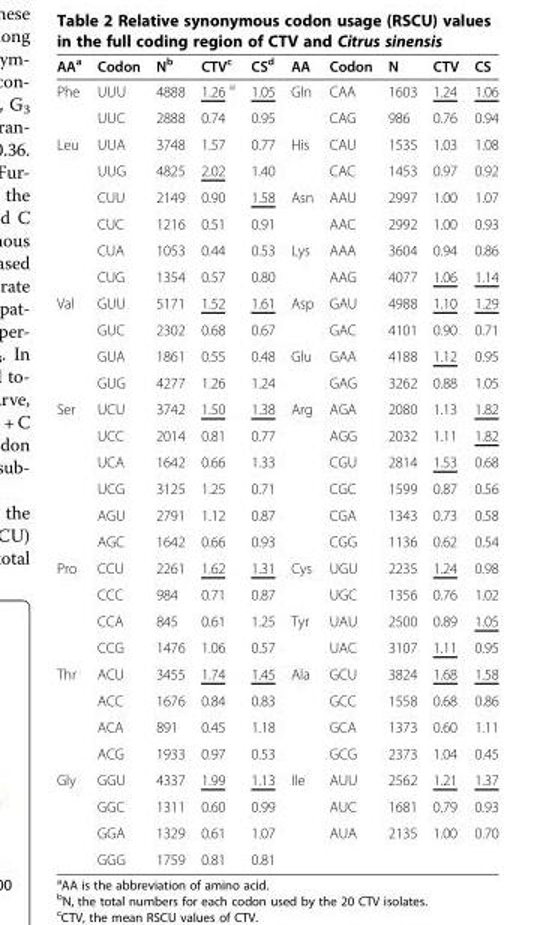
<table><thead><tr><td>AA<sup>a</sup></td><td>Codon</td><td>N<sup>b</sup></td><td>CTV<sup>c</sup></td><td>CS<sup>d</sup></td><td>AA</td><td>Codon</td><td>N</td><td>CTV</td><td>CS</td></tr></thead><tbody><tr><td rowspan="2">Phe</td><td>UUU</td><td>4888</td><td>1.26 <sup>e</sup></td><td>1.05</td><td>Gln</td><td>CAA</td><td>1603</td><td>1.24</td><td>1.06</td></tr><tr><td>UUC</td><td>2888</td><td>0.74</td><td>0.95</td><td></td><td>CAG</td><td>986</td><td>0.76</td><td>0.94</td></tr><tr><td rowspan="6">Leu</td><td>UUA</td><td>3748</td><td>1.57</td><td>0.77</td><td>His</td><td>CAU</td><td>1535</td><td>1.03</td><td>1.08</td></tr><tr><td>UUG</td><td>4825</td><td>2.02</td><td>1.40</td><td></td><td>CAC</td><td>1453</td><td>0.97</td><td>0.92</td></tr><tr><td>CUU</td><td>2149</td><td>0.90</td><td>1.58</td><td>Asn</td><td>AAU</td><td>2997</td><td>1.00</td><td>1.07</td></tr><tr><td>CUC</td><td>1216</td><td>0.51</td><td>0.91</td><td></td><td>AAC</td><td>2992</td><td>1.00</td><td>0.93</td></tr><tr><td>CUA</td><td>1053</td><td>0.44</td><td>0.53</td><td>Lys</td><td>AAA</td><td>3604</td><td>0.94</td><td>0.86</td></tr><tr><td>CUG</td><td>1354</td><td>0.57</td><td>0.80</td><td></td><td>AAG</td><td>4077</td><td>1.06</td><td>1.14</td></tr><tr><td rowspan="4">Val</td><td>GUU</td><td>5171</td><td>1.52</td><td>1.61</td><td>Asp</td><td>GAU</td><td>4988</td><td>1.10</td><td>1.29</td></tr><tr><td>GUC</td><td>2302</td><td>0.68</td><td>0.67</td><td></td><td>GAC</td><td>4101</td><td>0.90</td><td>0.71</td></tr><tr><td>GUA</td><td>1861</td><td>0.55</td><td>0.48</td><td>Glu</td><td>GAA</td><td>4188</td><td>1.12</td><td>0.95</td></tr><tr><td>GUG</td><td>4277</td><td>1.26</td><td>1.24</td><td></td><td>GAG</td><td>3262</td><td>0.88</td><td>1.05</td></tr><tr><td rowspan="6">Ser</td><td>UCU</td><td>3742</td><td>1.50</td><td>1.38</td><td>Arg</td><td>AGA</td><td>2080</td><td>1.13</td><td>1.82</td></tr><tr><td>UCC</td><td>2014</td><td>0.81</td><td>0.77</td><td></td><td>AGG</td><td>2032</td><td>1.11</td><td>1.82</td></tr><tr><td>UCA</td><td>1642</td><td>0.66</td><td>1.33</td><td></td><td>CGU</td><td>2814</td><td>1.53</td><td>0.68</td></tr><tr><td>UCG</td><td>3125</td><td>1.25</td><td>0.71</td><td></td><td>CGC</td><td>1599</td><td>0.87</td><td>0.56</td></tr><tr><td>AGU</td><td>2791</td><td>1.12</td><td>0.87</td><td></td><td>CGA</td><td>1343</td><td>0.73</td><td>0.58</td></tr><tr><td>AGC</td><td>1642</td><td>0.66</td><td>0.93</td><td></td><td>CGG</td><td>1136</td><td>0.62</td><td>0.54</td></tr><tr><td rowspan="4">Pro</td><td>CCU</td><td>2261</td><td>1.62</td><td>1.31</td><td>Cys</td><td>UGU</td><td>2235</td><td>1.24</td><td>0.98</td></tr><tr><td>CCC</td><td>984</td><td>0.71</td><td>0.87</td><td></td><td>UGC</td><td>1356</td><td>0.76</td><td>1.02</td></tr><tr><td>CCA</td><td>845</td><td>0.61</td><td>1.25</td><td>Tyr</td><td>UAU</td><td>2500</td><td>0.89</td><td>1.05</td></tr><tr><td>CCG</td><td>1476</td><td>1.06</td><td>0.57</td><td></td><td>UAC</td><td>3107</td><td>1.11</td><td>0.95</td></tr><tr><td rowspan="4">Thr</td><td>ACU</td><td>3455</td><td>1.74</td><td>1.45</td><td>Ala</td><td>GCU</td><td>3824</td><td>1.68</td><td>1.58</td></tr><tr><td>ACC</td><td>1676</td><td>0.84</td><td>0.83</td><td></td><td>GCC</td><td>1558</td><td>0.68</td><td>0.86</td></tr><tr><td>ACA</td><td>891</td><td>0.45</td><td>1.18</td><td></td><td>GCA</td><td>1373</td><td>0.60</td><td>1.11</td></tr><tr><td>ACG</td><td>1933</td><td>0.97</td><td>0.53</td><td></td><td>GCG</td><td>2373</td><td>1.04</td><td>0.45</td></tr><tr><td rowspan="4">Gly</td><td>GGU</td><td>4337</td><td>1.99</td><td>1.13</td><td>Ile</td><td>AUU</td><td>2562</td><td>1.21</td><td>1.37</td></tr><tr><td>GGC</td><td>1311</td><td>0.60</td><td>0.99</td><td></td><td>AUC</td><td>1681</td><td>0.79</td><td>0.93</td></tr><tr><td>GGA</td><td>1329</td><td>0.61</td><td>1.07</td><td></td><td>AUA</td><td>2135</td><td>1.00</td><td>0.70</td></tr><tr><td>GGG</td><td>1759</td><td>0.81</td><td>0.81</td><td></td><td></td><td></td><td></td><td></td></tr></tbody></table>